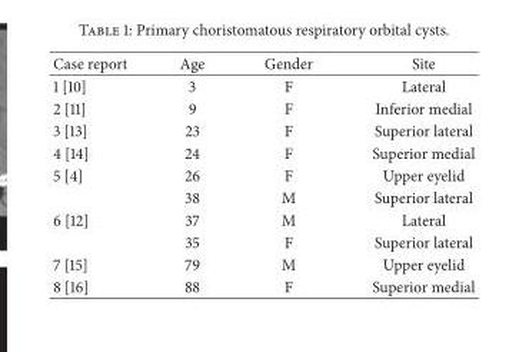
<table><thead><tr><td>Case report</td><td>Age</td><td>Gender</td><td>Site</td></tr></thead><tbody><tr><td>1 [10]</td><td>3</td><td>F</td><td>Lateral</td></tr><tr><td>2 [11]</td><td>9</td><td>F</td><td>Inferior medial</td></tr><tr><td>3 [13]</td><td>23</td><td>F</td><td>Superior lateral</td></tr><tr><td>4 [14]</td><td>24</td><td>F</td><td>Superior medial</td></tr><tr><td rowspan="2">5 [4]</td><td>26</td><td>F</td><td>Upper eyelid</td></tr><tr><td>38</td><td>M</td><td>Superior lateral</td></tr><tr><td rowspan="2">6 [12]</td><td>37</td><td>M</td><td>Lateral</td></tr><tr><td>35</td><td>F</td><td>Superior lateral</td></tr><tr><td>7 [15]</td><td>79</td><td>M</td><td>Upper eyelid</td></tr><tr><td>8 [16]</td><td>88</td><td>F</td><td>Superior medial</td></tr></tbody></table>